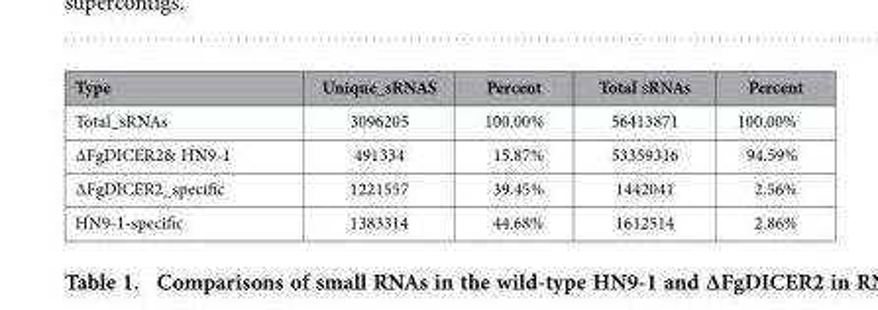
<table><thead><tr><td>Type</td><td>Unique_sRNAS</td><td>Percent</td><td>Total sRNAs</td><td>Percent</td></tr></thead><tbody><tr><td>Total_sRNAs</td><td>3096205</td><td>100.00%</td><td>56413871</td><td>100.00%</td></tr><tr><td>∆FgDICER2&amp; HN9-1</td><td>491334</td><td>15.87%</td><td>53359316</td><td>94.59%</td></tr><tr><td>∆FgDICER2_specific</td><td>1221557</td><td>39.45%</td><td>1442041</td><td>2.56%</td></tr><tr><td>HN9-1-specific</td><td>1383314</td><td>44.68%</td><td>1612514</td><td>2.86%</td></tr></tbody></table>